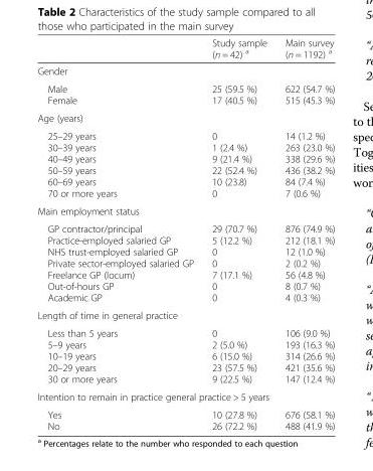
<table><thead><tr><td></td><td>Study sample (n = 42) <sup>a</sup></td><td>Main survey (n = 1192) <sup>a</sup></td></tr></thead><tbody><tr><td colspan="3">Gender</td></tr><tr><td>Male Female</td><td>25 (59.5 %) 17 (40.5 %)</td><td>622 (54.7 %) 515 (45.3 %)</td></tr><tr><td colspan="3">Age (years)</td></tr><tr><td>25–29 years 30–39 years 40–49 years 50–59 years 60–69 years 70 or more years</td><td>0 1 (2.4 %) 9 (21.4 %) 22 (52.4 %) 10 (23.8) 0</td><td>14 (1.2 %) 263 (23.0 %) 338 (29.6 %) 436 (38.2 %) 84 (7.4 %) 7 (0.6 %)</td></tr><tr><td colspan="3">Main employment status</td></tr><tr><td>GP contractor/principal Practice-employed salaried GP NHS trust-employed salaried GP Private sector-employed salaried GP Freelance GP (locum) Out-of-hours GP Academic GP</td><td>29 (70.7 %) 5 (12.2 %) 0 0 7 (17.1 %) 0 0</td><td>876 (74.9 %) 212 (18.1 %) 12 (1.0 %) 2 (0.2 %) 56 (4.8 %) 8 (0.7 %) 4 (0.3 %)</td></tr><tr><td colspan="3">Length of time in general practice</td></tr><tr><td>Less than 5 years 5–9 years 10–19 years 20–29 years 30 or more years</td><td>0 2 (5.0 %) 6 (15.0 %) 23 (57.5 %) 9 (22.5 %)</td><td>106 (9.0 %) 193 (16.3 %) 314 (26.6 %) 421 (35.6 %) 147 (12.4 %)</td></tr><tr><td colspan="3">Intention to remain in practice general practice &gt; 5 years</td></tr><tr><td>Yes No</td><td>10 (27.8 %) 26 (72.2 %)</td><td>676 (58.1 %) 488 (41.9 %)</td></tr></tbody></table>